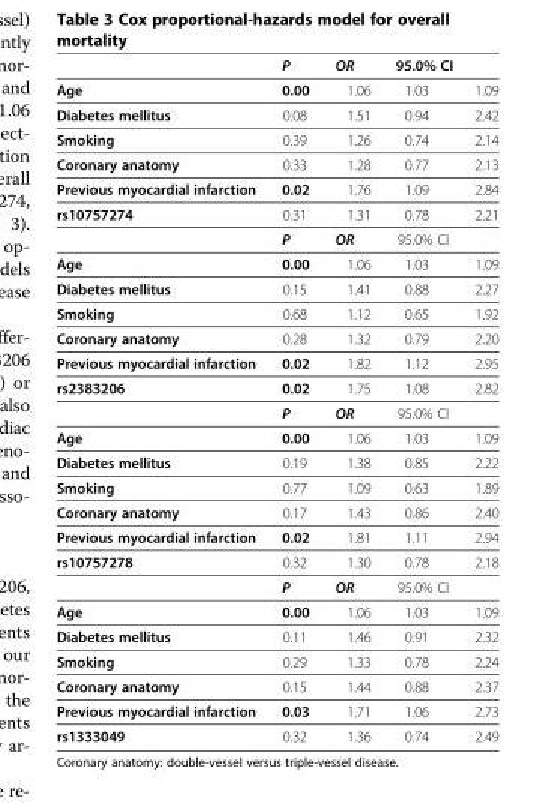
<table><thead><tr><td></td><td>P</td><td>OR</td><td>95.0% CI</td><td></td></tr></thead><tbody><tr><td>Age</td><td>0.00</td><td>1.06</td><td>1.03</td><td>1.09</td></tr><tr><td>Diabetes mellitus</td><td>0.08</td><td>1.51</td><td>0.94</td><td>2.42</td></tr><tr><td>Smoking</td><td>0.39</td><td>1.26</td><td>0.74</td><td>2.14</td></tr><tr><td>Coronary anatomy</td><td>0.33</td><td>1.28</td><td>0.77</td><td>2.13</td></tr><tr><td>Previous myocardial infarction</td><td>0.02</td><td>1.76</td><td>1.09</td><td>2.84</td></tr><tr><td rowspan="2">rs10757274</td><td>0.31</td><td>1.31</td><td>0.78</td><td>2.21</td></tr><tr><td>P</td><td>OR</td><td>95.0% CI</td><td></td></tr><tr><td>Age</td><td>0.00</td><td>1.06</td><td>1.03</td><td>1.09</td></tr><tr><td>Diabetes mellitus</td><td>0.15</td><td>1.41</td><td>0.88</td><td>2.27</td></tr><tr><td>Smoking</td><td>0.68</td><td>1.12</td><td>0.65</td><td>1.92</td></tr><tr><td>Coronary anatomy</td><td>0.28</td><td>1.32</td><td>0.79</td><td>2.20</td></tr><tr><td>Previous myocardial infarction</td><td>0.02</td><td>1.82</td><td>1.12</td><td>2.95</td></tr><tr><td rowspan="2">rs2383206</td><td>0.02</td><td>1.75</td><td>1.08</td><td>2.82</td></tr><tr><td>P</td><td>OR</td><td>95.0% CI</td><td></td></tr><tr><td>Age</td><td>0.00</td><td>1.06</td><td>1.03</td><td>1.09</td></tr><tr><td>Diabetes mellitus</td><td>0.19</td><td>1.38</td><td>0.85</td><td>2.22</td></tr><tr><td>Smoking</td><td>0.77</td><td>1.09</td><td>0.63</td><td>1.89</td></tr><tr><td>Coronary anatomy</td><td>0.17</td><td>1.43</td><td>0.86</td><td>2.40</td></tr><tr><td>Previous myocardial infarction</td><td>0.02</td><td>1.81</td><td>1.11</td><td>2.94</td></tr><tr><td rowspan="2">rs10757278</td><td>0.32</td><td>1.30</td><td>0.78</td><td>2.18</td></tr><tr><td>P</td><td>OR</td><td>95.0% CI</td><td></td></tr><tr><td>Age</td><td>0.00</td><td>1.06</td><td>1.03</td><td>1.09</td></tr><tr><td>Diabetes mellitus</td><td>0.11</td><td>1.46</td><td>0.91</td><td>2.32</td></tr><tr><td>Smoking</td><td>0.29</td><td>1.33</td><td>0.78</td><td>2.24</td></tr><tr><td>Coronary anatomy</td><td>0.15</td><td>1.44</td><td>0.88</td><td>2.37</td></tr><tr><td>Previous myocardial infarction</td><td>0.03</td><td>1.71</td><td>1.06</td><td>2.73</td></tr><tr><td>rs1333049</td><td>0.32</td><td>1.36</td><td>0.74</td><td>2.49</td></tr></tbody></table>